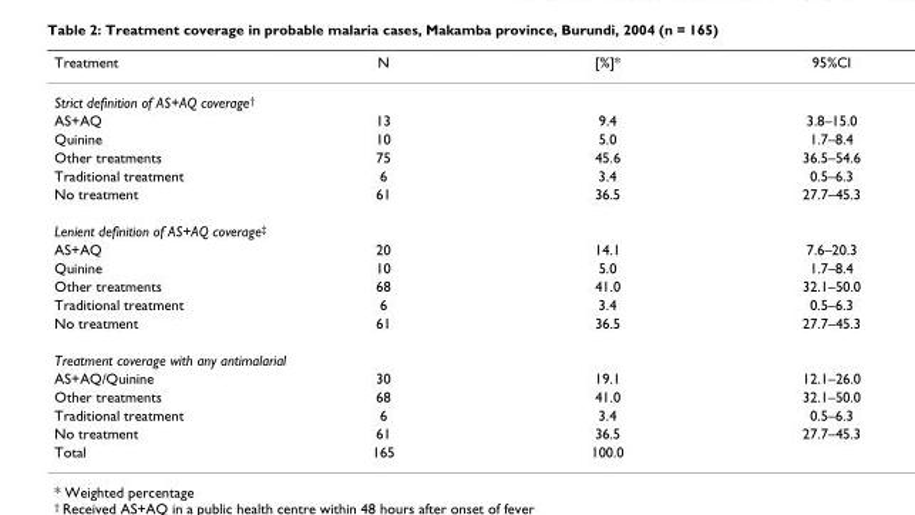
<table><thead><tr><td>Treatment</td><td>N</td><td>[%]*</td><td>95%CI</td></tr></thead><tbody><tr><td colspan="4">Strict definition of AS+AQ coverage<sup>†</sup></td></tr><tr><td>AS+AQ</td><td>13</td><td>9.4</td><td>3.8–15.0</td></tr><tr><td>Quinine</td><td>10</td><td>5.0</td><td>1.7–8.4</td></tr><tr><td>Other treatments</td><td>75</td><td>45.6</td><td>36.5–54.6</td></tr><tr><td>Traditional treatment</td><td>6</td><td>3.4</td><td>0.5–6.3</td></tr><tr><td>No treatment</td><td>61</td><td>36.5</td><td>27.7–45.3</td></tr><tr><td colspan="4">Lenient definition of AS+AQ coverage<sup>‡</sup></td></tr><tr><td>AS+AQ</td><td>20</td><td>14.1</td><td>7.6–20.3</td></tr><tr><td>Quinine</td><td>10</td><td>5.0</td><td>1.7–8.4</td></tr><tr><td>Other treatments</td><td>68</td><td>41.0</td><td>32.1–50.0</td></tr><tr><td>Traditional treatment</td><td>6</td><td>3.4</td><td>0.5–6.3</td></tr><tr><td>No treatment</td><td>61</td><td>36.5</td><td>27.7–45.3</td></tr><tr><td colspan="4">Treatment coverage with any antimalarial</td></tr><tr><td>AS+AQ/Quinine</td><td>30</td><td>19.1</td><td>12.1–26.0</td></tr><tr><td>Other treatments</td><td>68</td><td>41.0</td><td>32.1–50.0</td></tr><tr><td>Traditional treatment</td><td>6</td><td>3.4</td><td>0.5–6.3</td></tr><tr><td>No treatment</td><td>61</td><td>36.5</td><td>27.7–45.3</td></tr><tr><td>Total</td><td>165</td><td>100.0</td><td></td></tr></tbody></table>